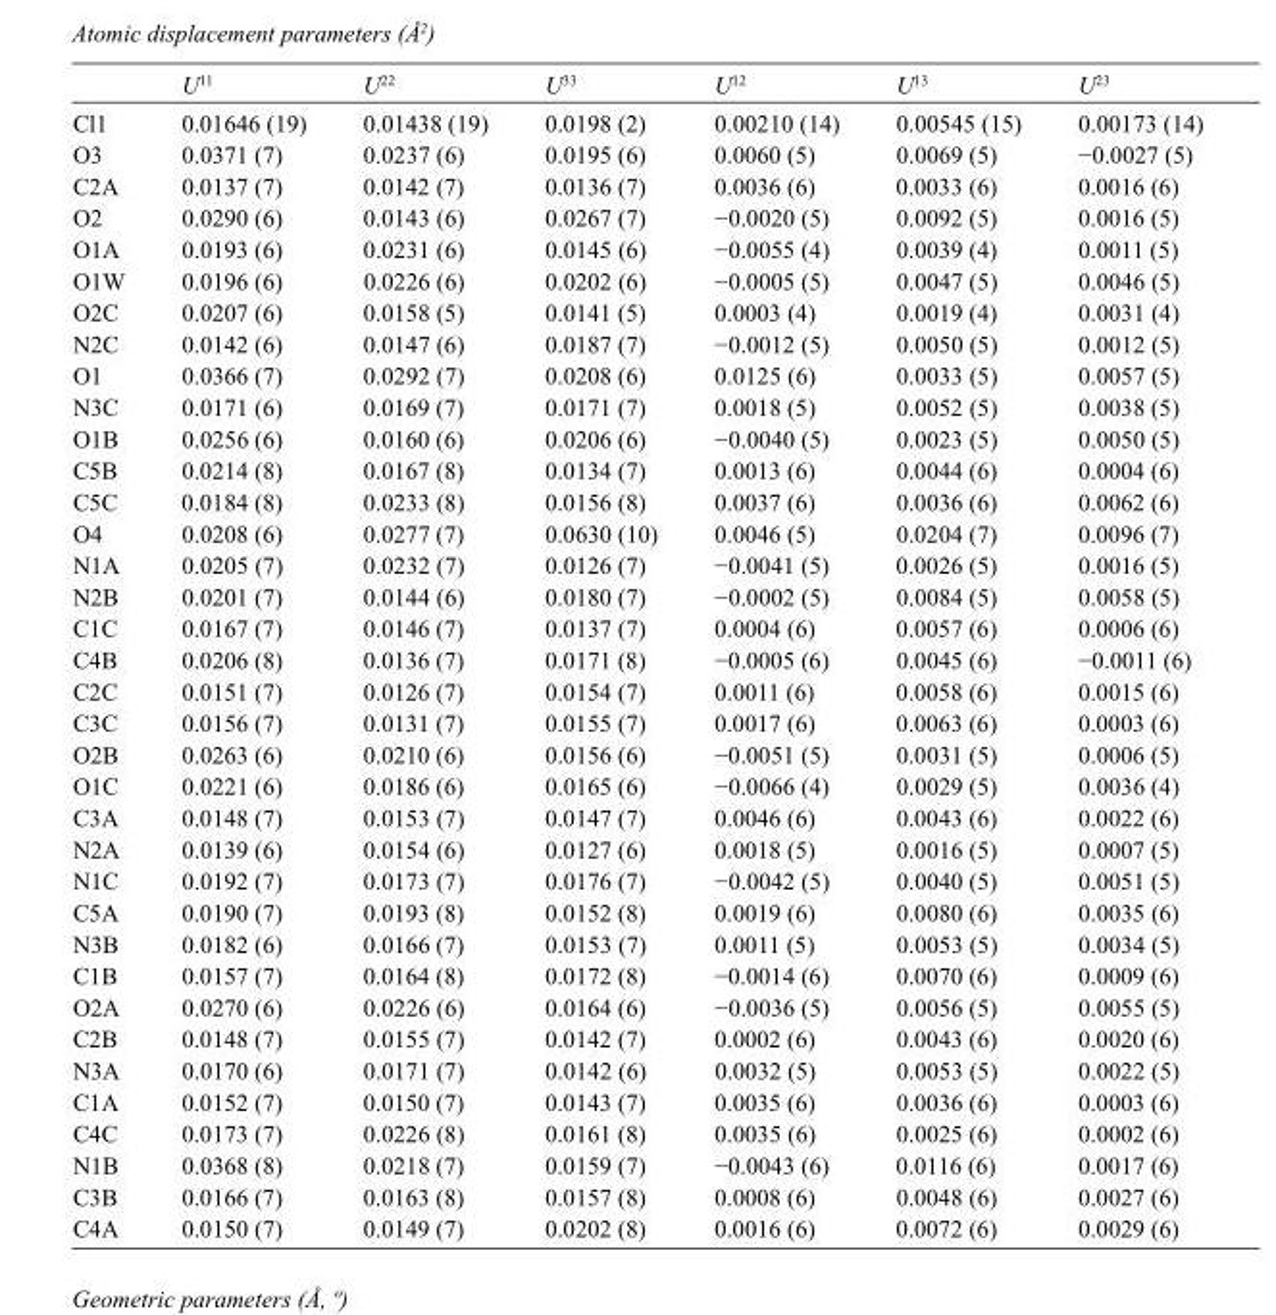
<table><thead><tr><td></td><td>U<sup>11</sup></td><td>U<sup>22</sup></td><td>U<sup>33</sup></td><td>U<sup>12</sup></td><td>U<sup>13</sup></td><td>U<sup>23</sup></td></tr></thead><tbody><tr><td>Cl1</td><td>0.01646 (19)</td><td>0.01438 (19)</td><td>0.0198 (2)</td><td>0.00210 (14)</td><td>0.00545 (15)</td><td>0.00173 (14)</td></tr><tr><td>O3</td><td>0.0371 (7)</td><td>0.0237 (6)</td><td>0.0195 (6)</td><td>0.0060 (5)</td><td>0.0069 (5)</td><td>−0.0027 (5)</td></tr><tr><td>C2A</td><td>0.0137 (7)</td><td>0.0142 (7)</td><td>0.0136 (7)</td><td>0.0036 (6)</td><td>0.0033 (6)</td><td>0.0016 (6)</td></tr><tr><td>O2</td><td>0.0290 (6)</td><td>0.0143 (6)</td><td>0.0267 (7)</td><td>−0.0020 (5)</td><td>0.0092 (5)</td><td>0.0016 (5)</td></tr><tr><td>O1A</td><td>0.0193 (6)</td><td>0.0231 (6)</td><td>0.0145 (6)</td><td>−0.0055 (4)</td><td>0.0039 (4)</td><td>0.0011 (5)</td></tr><tr><td>O1W</td><td>0.0196 (6)</td><td>0.0226 (6)</td><td>0.0202 (6)</td><td>−0.0005 (5)</td><td>0.0047 (5)</td><td>0.0046 (5)</td></tr><tr><td>O2C</td><td>0.0207 (6)</td><td>0.0158 (5)</td><td>0.0141 (5)</td><td>0.0003 (4)</td><td>0.0019 (4)</td><td>0.0031 (4)</td></tr><tr><td>N2C</td><td>0.0142 (6)</td><td>0.0147 (6)</td><td>0.0187 (7)</td><td>−0.0012 (5)</td><td>0.0050 (5)</td><td>0.0012 (5)</td></tr><tr><td>O1</td><td>0.0366 (7)</td><td>0.0292 (7)</td><td>0.0208 (6)</td><td>0.0125 (6)</td><td>0.0033 (5)</td><td>0.0057 (5)</td></tr><tr><td>N3C</td><td>0.0171 (6)</td><td>0.0169 (7)</td><td>0.0171 (7)</td><td>0.0018 (5)</td><td>0.0052 (5)</td><td>0.0038 (5)</td></tr><tr><td>O1B</td><td>0.0256 (6)</td><td>0.0160 (6)</td><td>0.0206 (6)</td><td>−0.0040 (5)</td><td>0.0023 (5)</td><td>0.0050 (5)</td></tr><tr><td>C5B</td><td>0.0214 (8)</td><td>0.0167 (8)</td><td>0.0134 (7)</td><td>0.0013 (6)</td><td>0.0044 (6)</td><td>0.0004 (6)</td></tr><tr><td>C5C</td><td>0.0184 (8)</td><td>0.0233 (8)</td><td>0.0156 (8)</td><td>0.0037 (6)</td><td>0.0036 (6)</td><td>0.0062 (6)</td></tr><tr><td>O4</td><td>0.0208 (6)</td><td>0.0277 (7)</td><td>0.0630 (10)</td><td>0.0046 (5)</td><td>0.0204 (7)</td><td>0.0096 (7)</td></tr><tr><td>N1A</td><td>0.0205 (7)</td><td>0.0232 (7)</td><td>0.0126 (7)</td><td>−0.0041 (5)</td><td>0.0026 (5)</td><td>0.0016 (5)</td></tr><tr><td>N2B</td><td>0.0201 (7)</td><td>0.0144 (6)</td><td>0.0180 (7)</td><td>−0.0002 (5)</td><td>0.0084 (5)</td><td>0.0058 (5)</td></tr><tr><td>C1C</td><td>0.0167 (7)</td><td>0.0146 (7)</td><td>0.0137 (7)</td><td>0.0004 (6)</td><td>0.0057 (6)</td><td>0.0006 (6)</td></tr><tr><td>C4B</td><td>0.0206 (8)</td><td>0.0136 (7)</td><td>0.0171 (8)</td><td>−0.0005 (6)</td><td>0.0045 (6)</td><td>−0.0011 (6)</td></tr><tr><td>C2C</td><td>0.0151 (7)</td><td>0.0126 (7)</td><td>0.0154 (7)</td><td>0.0011 (6)</td><td>0.0058 (6)</td><td>0.0015 (6)</td></tr><tr><td>C3C</td><td>0.0156 (7)</td><td>0.0131 (7)</td><td>0.0155 (7)</td><td>0.0017 (6)</td><td>0.0063 (6)</td><td>0.0003 (6)</td></tr><tr><td>O2B</td><td>0.0263 (6)</td><td>0.0210 (6)</td><td>0.0156 (6)</td><td>−0.0051 (5)</td><td>0.0031 (5)</td><td>0.0006 (5)</td></tr><tr><td>O1C</td><td>0.0221 (6)</td><td>0.0186 (6)</td><td>0.0165 (6)</td><td>−0.0066 (4)</td><td>0.0029 (5)</td><td>0.0036 (4)</td></tr><tr><td>C3A</td><td>0.0148 (7)</td><td>0.0153 (7)</td><td>0.0147 (7)</td><td>0.0046 (6)</td><td>0.0043 (6)</td><td>0.0022 (6)</td></tr><tr><td>N2A</td><td>0.0139 (6)</td><td>0.0154 (6)</td><td>0.0127 (6)</td><td>0.0018 (5)</td><td>0.0016 (5)</td><td>0.0007 (5)</td></tr><tr><td>N1C</td><td>0.0192 (7)</td><td>0.0173 (7)</td><td>0.0176 (7)</td><td>−0.0042 (5)</td><td>0.0040 (5)</td><td>0.0051 (5)</td></tr><tr><td>C5A</td><td>0.0190 (7)</td><td>0.0193 (8)</td><td>0.0152 (8)</td><td>0.0019 (6)</td><td>0.0080 (6)</td><td>0.0035 (6)</td></tr><tr><td>N3B</td><td>0.0182 (6)</td><td>0.0166 (7)</td><td>0.0153 (7)</td><td>0.0011 (5)</td><td>0.0053 (5)</td><td>0.0034 (5)</td></tr><tr><td>C1B</td><td>0.0157 (7)</td><td>0.0164 (8)</td><td>0.0172 (8)</td><td>−0.0014 (6)</td><td>0.0070 (6)</td><td>0.0009 (6)</td></tr><tr><td>O2A</td><td>0.0270 (6)</td><td>0.0226 (6)</td><td>0.0164 (6)</td><td>−0.0036 (5)</td><td>0.0056 (5)</td><td>0.0055 (5)</td></tr><tr><td>C2B</td><td>0.0148 (7)</td><td>0.0155 (7)</td><td>0.0142 (7)</td><td>0.0002 (6)</td><td>0.0043 (6)</td><td>0.0020 (6)</td></tr><tr><td>N3A</td><td>0.0170 (6)</td><td>0.0171 (7)</td><td>0.0142 (6)</td><td>0.0032 (5)</td><td>0.0053 (5)</td><td>0.0022 (5)</td></tr><tr><td>C1A</td><td>0.0152 (7)</td><td>0.0150 (7)</td><td>0.0143 (7)</td><td>0.0035 (6)</td><td>0.0036 (6)</td><td>0.0003 (6)</td></tr><tr><td>C4C</td><td>0.0173 (7)</td><td>0.0226 (8)</td><td>0.0161 (8)</td><td>0.0035 (6)</td><td>0.0025 (6)</td><td>0.0002 (6)</td></tr><tr><td>N1B</td><td>0.0368 (8)</td><td>0.0218 (7)</td><td>0.0159 (7)</td><td>−0.0043 (6)</td><td>0.0116 (6)</td><td>0.0017 (6)</td></tr><tr><td>C3B</td><td>0.0166 (7)</td><td>0.0163 (8)</td><td>0.0157 (8)</td><td>0.0008 (6)</td><td>0.0048 (6)</td><td>0.0027 (6)</td></tr><tr><td>C4A</td><td>0.0150 (7)</td><td>0.0149 (7)</td><td>0.0202 (8)</td><td>0.0016 (6)</td><td>0.0072 (6)</td><td>0.0029 (6)</td></tr></tbody></table>